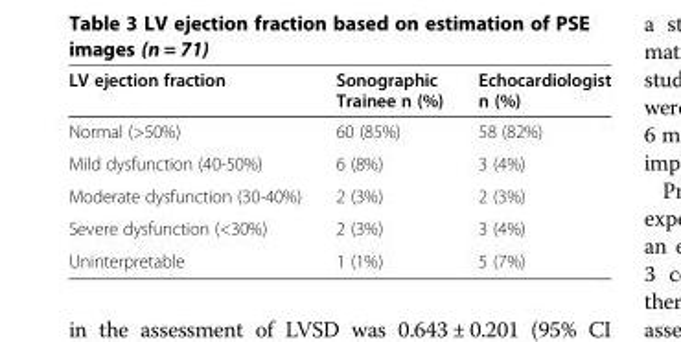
<table><thead><tr><td>LV ejection fraction</td><td>Sonographic Trainee n (%)</td><td>Echocardiologist n (%)</td></tr></thead><tbody><tr><td>Normal (&gt;50%)</td><td>60 (85%)</td><td>58 (82%)</td></tr><tr><td>Mild dysfunction (40-50%)</td><td>6 (8%)</td><td>3 (4%)</td></tr><tr><td>Moderate dysfunction (30-40%)</td><td>2 (3%)</td><td>2 (3%)</td></tr><tr><td>Severe dysfunction (&lt;30%)</td><td>2 (3%)</td><td>3 (4%)</td></tr><tr><td>Uninterpretable</td><td>1 (1%)</td><td>5 (7%)</td></tr></tbody></table>